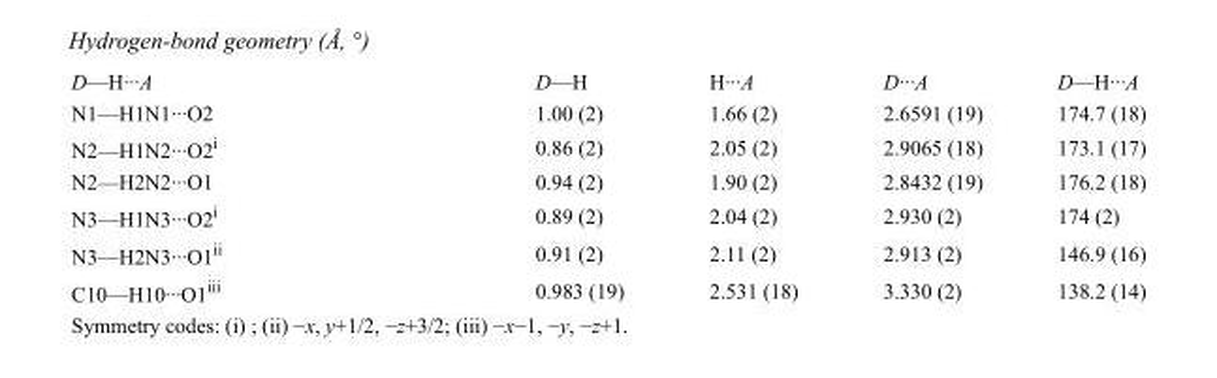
<table><tbody><tr><td>D—H···A</td><td>D—H</td><td>H···A</td><td>D···A</td><td>D—H···A</td></tr><tr><td>N1—H1N1···O2</td><td>1.00 (2)</td><td>1.66 (2)</td><td>2.6591 (19)</td><td>174.7 (18)</td></tr><tr><td>N2—H1N2···O2<sup>i</sup></td><td>0.86 (2)</td><td>2.05 (2)</td><td>2.9065 (18)</td><td>173.1 (17)</td></tr><tr><td>N2—H2N2···O1</td><td>0.94 (2)</td><td>1.90 (2)</td><td>2.8432 (19)</td><td>176.2 (18)</td></tr><tr><td>N3—H1N3···O2<sup>i</sup></td><td>0.89 (2)</td><td>2.04 (2)</td><td>2.930 (2)</td><td>174 (2)</td></tr><tr><td>N3—H2N3···O1<sup>ii</sup></td><td>0.91 (2)</td><td>2.11 (2)</td><td>2.913 (2)</td><td>146.9 (16)</td></tr><tr><td>C10—H10···O1<sup>iii</sup></td><td>0.983 (19)</td><td>2.531 (18)</td><td>3.330 (2)</td><td>138.2 (14)</td></tr></tbody></table>